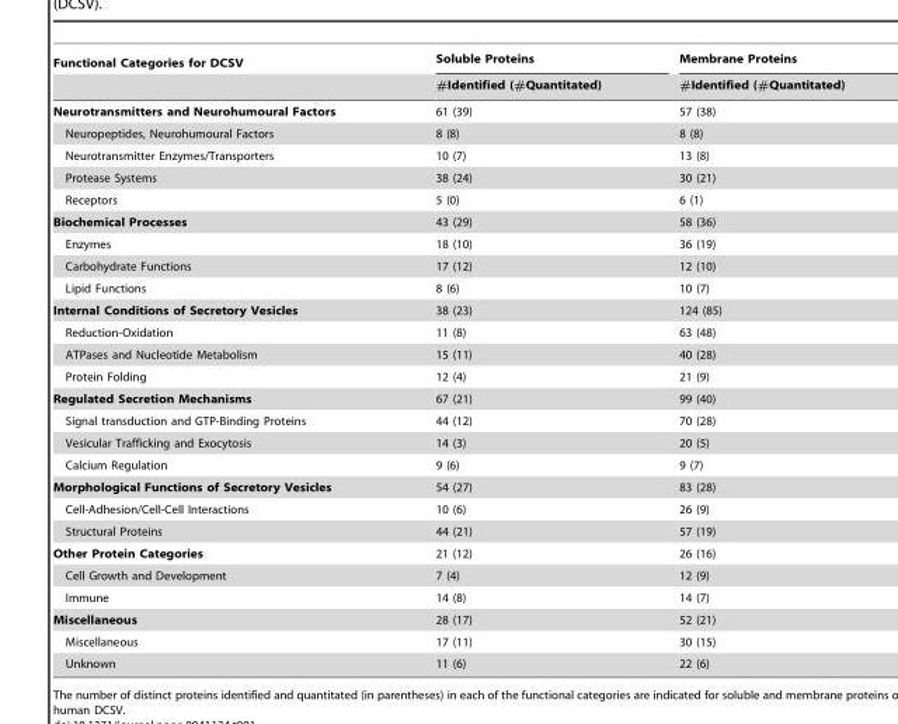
<table><thead><tr><td rowspan="2">Functional Categories for DCSV</td><td rowspan="2">Soluble Proteins #Identified (#Quantitated)</td><td rowspan="2">Membrane Proteins #Identified (#Quantitated)</td></tr><tr></tr></thead><tbody><tr><td>Neurotransmitters and Neurohumoural Factors</td><td>61 (39)</td><td>57 (38)</td></tr><tr><td>Neuropeptides, Neurohumoural Factors</td><td>8 (8)</td><td>8 (8)</td></tr><tr><td>Neurotransmitter Enzymes/Transporters</td><td>10 (7)</td><td>13 (8)</td></tr><tr><td>Protease Systems</td><td>38 (24)</td><td>30 (21)</td></tr><tr><td>Receptors</td><td>5 (0)</td><td>6 (1)</td></tr><tr><td>Biochemical Processes</td><td>43 (29)</td><td>58 (36)</td></tr><tr><td>Enzymes</td><td>18 (10)</td><td>36 (19)</td></tr><tr><td>Carbohydrate Functions</td><td>17 (12)</td><td>12 (10)</td></tr><tr><td>Lipid Functions</td><td>8 (6)</td><td>10 (7)</td></tr><tr><td>Internal Conditions of Secretory Vesicles</td><td>38 (23)</td><td>124 (85)</td></tr><tr><td>Reduction-Oxidation</td><td>11 (8)</td><td>63 (48)</td></tr><tr><td>ATPases and Nucleotide Metabolism</td><td>15 (11)</td><td>40 (28)</td></tr><tr><td>Protein Folding</td><td>12 (4)</td><td>21 (9)</td></tr><tr><td>Regulated Secretion Mechanisms</td><td>67 (21)</td><td>99 (40)</td></tr><tr><td>Signal transduction and GTP-Binding Proteins</td><td>44 (12)</td><td>70 (28)</td></tr><tr><td>Vesicular Trafficking and Exocytosis</td><td>14 (3)</td><td>20 (5)</td></tr><tr><td>Calcium Regulation</td><td>9 (6)</td><td>9 (7)</td></tr><tr><td>Morphological Functions of Secretory Vesicles</td><td>54 (27)</td><td>83 (28)</td></tr><tr><td>Cell-Adhesion/Cell-Cell Interactions</td><td>10 (6)</td><td>26 (9)</td></tr><tr><td>Structural Proteins</td><td>44 (21)</td><td>57 (19)</td></tr><tr><td>Other Protein Categories</td><td>21 (12)</td><td>26 (16)</td></tr><tr><td>Cell Growth and Development</td><td>7 (4)</td><td>12 (9)</td></tr><tr><td>Immune</td><td>14 (8)</td><td>14 (7)</td></tr><tr><td>Miscellaneous</td><td>28 (17)</td><td>52 (21)</td></tr><tr><td>Miscellaneous</td><td>17 (11)</td><td>30 (15)</td></tr><tr><td>Unknown</td><td>11 (6)</td><td>22 (6)</td></tr></tbody></table>